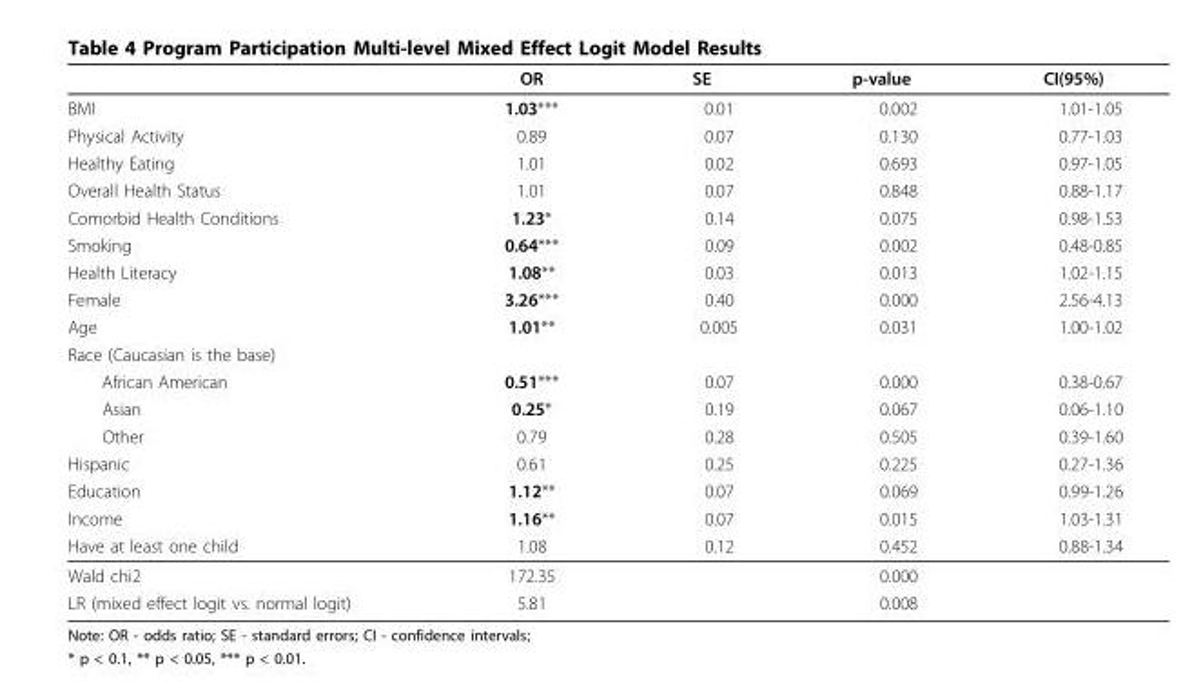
<table><thead><tr><td></td><td>OR</td><td>SE</td><td>p-value</td><td>CI(95%)</td></tr></thead><tbody><tr><td>BMI</td><td>1.03***</td><td>0.01</td><td>0.002</td><td>1.01-1.05</td></tr><tr><td>Physical Activity</td><td>0.89</td><td>0.07</td><td>0.130</td><td>0.77-1.03</td></tr><tr><td>Healthy Eating</td><td>1.01</td><td>0.02</td><td>0.693</td><td>0.97-1.05</td></tr><tr><td>Overall Health Status</td><td>1.01</td><td>0.07</td><td>0.848</td><td>0.88-1.17</td></tr><tr><td>Comorbid Health Conditions</td><td>1.23*</td><td>0.14</td><td>0.075</td><td>0.98-1.53</td></tr><tr><td>Smoking</td><td>0.64***</td><td>0.09</td><td>0.002</td><td>0.48-0.85</td></tr><tr><td>Health Literacy</td><td>1.08**</td><td>0.03</td><td>0.013</td><td>1.02-1.15</td></tr><tr><td>Female</td><td>3.26***</td><td>0.40</td><td>0.000</td><td>2.56-4.13</td></tr><tr><td>Age</td><td>1.01**</td><td>0.005</td><td>0.031</td><td>1.00-1.02</td></tr><tr><td colspan="5">Race (Caucasian is the base)</td></tr><tr><td>African American</td><td>0.51***</td><td>0.07</td><td>0.000</td><td>0.38-0.67</td></tr><tr><td>Asian</td><td>0.25*</td><td>0.19</td><td>0.067</td><td>0.06-1.10</td></tr><tr><td>Other</td><td>0.79</td><td>0.28</td><td>0.505</td><td>0.39-1.60</td></tr><tr><td>Hispanic</td><td>0.61</td><td>0.25</td><td>0.225</td><td>0.27-1.36</td></tr><tr><td>Education</td><td>1.12**</td><td>0.07</td><td>0.069</td><td>0.99-1.26</td></tr><tr><td>Income</td><td>1.16**</td><td>0.07</td><td>0.015</td><td>1.03-1.31</td></tr><tr><td>Have at least one child</td><td>1.08</td><td>0.12</td><td>0.452</td><td>0.88-1.34</td></tr><tr><td>Wald chi2</td><td>172.35</td><td></td><td>0.000</td><td></td></tr><tr><td>LR (mixed effect logit vs. normal logit)</td><td>5.81</td><td></td><td>0.008</td><td></td></tr></tbody></table>